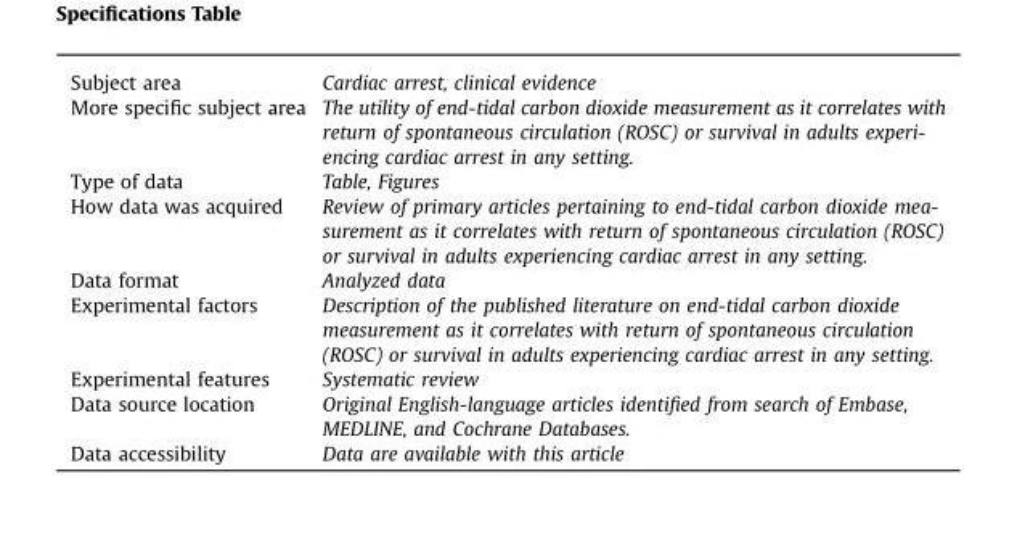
<table><tbody><tr><td>Subject area</td><td>Cardiac arrest, clinical evidence</td></tr><tr><td>More specific subject area</td><td>The utility of end-tidal carbon dioxide measurement as it correlates with return of spontaneous circulation (ROSC) or survival in adults experi- encing cardiac arrest in any setting.</td></tr><tr><td>Type of data</td><td>Table, Figures</td></tr><tr><td>How data was acquired</td><td>Review of primary articles pertaining to end-tidal carbon dioxide mea- surement as it correlates with return of spontaneous circulation (ROSC) or survival in adults experiencing cardiac arrest in any setting.</td></tr><tr><td>Data format</td><td>Analyzed data</td></tr><tr><td>Experimental factors</td><td>Description of the published literature on end-tidal carbon dioxide measurement as it correlates with return of spontaneous circulation (ROSC) or survival in adults experiencing cardiac arrest in any setting.</td></tr><tr><td>Experimental features</td><td>Systematic review</td></tr><tr><td>Data source location</td><td>Original English-language articles identified from search of Embase, MEDLINE, and Cochrane Databases.</td></tr><tr><td>Data accessibility</td><td>Data are available with this article</td></tr></tbody></table>